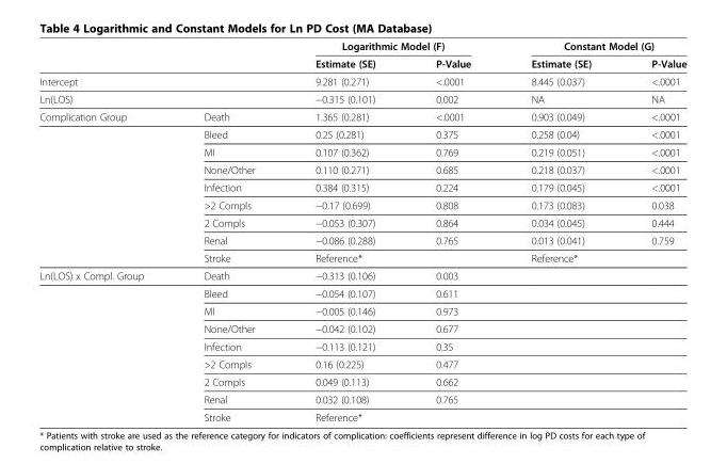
<table><thead><tr><td rowspan="2"></td><td rowspan="2"></td><td colspan="2">Logarithmic Model (F)</td><td colspan="2">Constant Model (G)</td></tr><tr><td>Estimate (SE)</td><td>P-Value</td><td>Estimate (SE)</td><td>P-Value</td></tr></thead><tbody><tr><td colspan="2">Intercept</td><td>9.281 (0.271)</td><td>&lt;.0001</td><td>8.445 (0.037)</td><td>&lt;.0001</td></tr><tr><td colspan="2">Ln(LOS)</td><td>−0.315 (0.101)</td><td>0.002</td><td>NA</td><td>NA</td></tr><tr><td rowspan="9">Complication Group</td><td>Death</td><td>1.365 (0.281)</td><td>&lt;.0001</td><td>0.903 (0.049)</td><td>&lt;.0001</td></tr><tr><td>Bleed</td><td>0.25 (0.281)</td><td>0.375</td><td>0.258 (0.04)</td><td>&lt;.0001</td></tr><tr><td>MI</td><td>0.107 (0.362)</td><td>0.769</td><td>0.219 (0.051)</td><td>&lt;.0001</td></tr><tr><td>None/Other</td><td>0.110 (0.271)</td><td>0.685</td><td>0.218 (0.037)</td><td>&lt;.0001</td></tr><tr><td>Infection</td><td>0.384 (0.315)</td><td>0.224</td><td>0.179 (0.045)</td><td>&lt;.0001</td></tr><tr><td>&gt;2 Compls</td><td>−0.17 (0.699)</td><td>0.808</td><td>0.173 (0.083)</td><td>0.038</td></tr><tr><td>2 Compls</td><td>−0.053 (0.307)</td><td>0.864</td><td>0.034 (0.045)</td><td>0.444</td></tr><tr><td>Renal</td><td>−0.086 (0.288)</td><td>0.765</td><td>0.013 (0.041)</td><td>0.759</td></tr><tr><td>Stroke</td><td colspan="2">Reference*</td><td colspan="2">Reference*</td></tr><tr><td rowspan="9">Ln(LOS) x Compl. Group</td><td>Death</td><td>−0.313 (0.106)</td><td>0.003</td><td></td><td></td></tr><tr><td>Bleed</td><td>−0.054 (0.107)</td><td>0.611</td><td></td><td></td></tr><tr><td>MI</td><td>−0.005 (0.146)</td><td>0.973</td><td></td><td></td></tr><tr><td>None/Other</td><td>−0.042 (0.102)</td><td>0.677</td><td></td><td></td></tr><tr><td>Infection</td><td>−0.113 (0.121)</td><td>0.35</td><td></td><td></td></tr><tr><td>&gt;2 Compls</td><td>0.16 (0.225)</td><td>0.477</td><td></td><td></td></tr><tr><td>2 Compls</td><td>0.049 (0.113)</td><td>0.662</td><td></td><td></td></tr><tr><td>Renal</td><td>0.032 (0.108)</td><td>0.765</td><td></td><td></td></tr><tr><td>Stroke</td><td colspan="2">Reference*</td><td></td><td></td></tr></tbody></table>